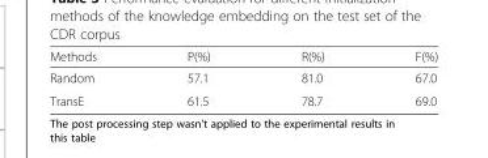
<table><thead><tr><td>Methods</td><td>P(%)</td><td>R(%)</td><td>F(%)</td></tr></thead><tbody><tr><td>Random</td><td>57.1</td><td>81.0</td><td>67.0</td></tr><tr><td>TransE</td><td>61.5</td><td>78.7</td><td>69.0</td></tr></tbody></table>